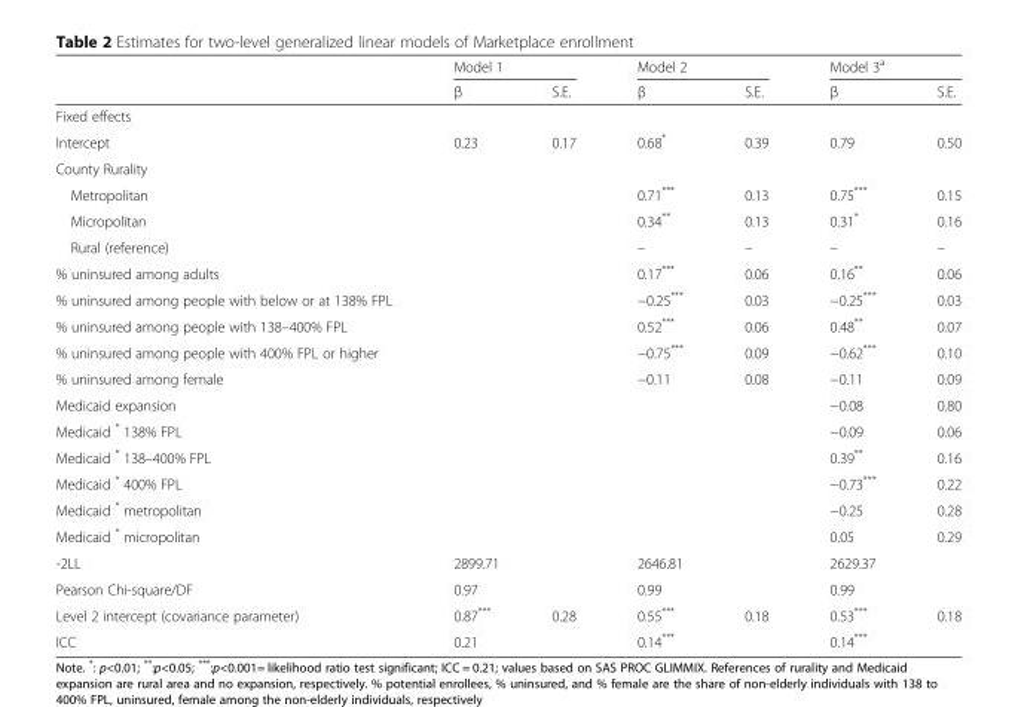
<table><thead><tr><td rowspan="2"></td><td colspan="2">Model 1</td><td colspan="2">Model 2</td><td colspan="2">Model 3<sup>a</sup></td></tr><tr><td>β</td><td>S.E.</td><td>β</td><td>S.E.</td><td>β</td><td>S.E.</td></tr></thead><tbody><tr><td colspan="7">Fixed effects</td></tr><tr><td>Intercept</td><td>0.23</td><td>0.17</td><td>0.68*</td><td>0.39</td><td>0.79</td><td>0.50</td></tr><tr><td colspan="7">County Rurality</td></tr><tr><td>Metropolitan</td><td></td><td></td><td>0.71***</td><td>0.13</td><td>0.75***</td><td>0.15</td></tr><tr><td>Micropolitan</td><td></td><td></td><td>0.34**</td><td>0.13</td><td>0.31*</td><td>0.16</td></tr><tr><td>Rural (reference)</td><td></td><td></td><td>–</td><td>–</td><td>–</td><td>–</td></tr><tr><td>% uninsured among adults</td><td></td><td></td><td>0.17***</td><td>0.06</td><td>0.16**</td><td>0.06</td></tr><tr><td>% uninsured among people with below or at 138% FPL</td><td></td><td></td><td>−0.25***</td><td>0.03</td><td>−0.25***</td><td>0.03</td></tr><tr><td>% uninsured among people with 138–400% FPL</td><td></td><td></td><td>0.52***</td><td>0.06</td><td>0.48**</td><td>0.07</td></tr><tr><td>% uninsured among people with 400% FPL or higher</td><td></td><td></td><td>−0.75***</td><td>0.09</td><td>−0.62***</td><td>0.10</td></tr><tr><td>% uninsured among female</td><td></td><td></td><td>−0.11</td><td>0.08</td><td>−0.11</td><td>0.09</td></tr><tr><td>Medicaid expansion</td><td></td><td></td><td></td><td></td><td>−0.08</td><td>0.80</td></tr><tr><td>Medicaid * 138% FPL</td><td></td><td></td><td></td><td></td><td>−0.09</td><td>0.06</td></tr><tr><td>Medicaid * 138–400% FPL</td><td></td><td></td><td></td><td></td><td>0.39**</td><td>0.16</td></tr><tr><td>Medicaid * 400% FPL</td><td></td><td></td><td></td><td></td><td>−0.73***</td><td>0.22</td></tr><tr><td>Medicaid * metropolitan</td><td></td><td></td><td></td><td></td><td>−0.25</td><td>0.28</td></tr><tr><td>Medicaid * micropolitan</td><td></td><td></td><td></td><td></td><td>0.05</td><td>0.29</td></tr><tr><td>-2LL</td><td colspan="2">2899.71</td><td colspan="2">2646.81</td><td colspan="2">2629.37</td></tr><tr><td>Pearson Chi-square/DF</td><td colspan="2">0.97</td><td colspan="2">0.99</td><td colspan="2">0.99</td></tr><tr><td>Level 2 intercept (covariance parameter)</td><td>0.87***</td><td>0.28</td><td>0.55***</td><td>0.18</td><td>0.53***</td><td>0.18</td></tr><tr><td>ICC</td><td colspan="2">0.21</td><td colspan="2">0.14***</td><td colspan="2">0.14***</td></tr></tbody></table>